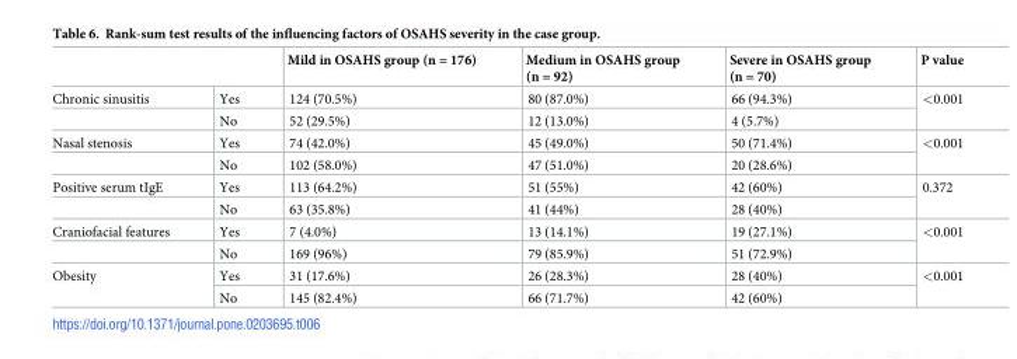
<table><thead><tr><td></td><td></td><td>Mild in OSAHS group (n = 176)</td><td>Medium in OSAHS group (n = 92)</td><td>Severe in OSAHS group (n = 70)</td><td>P value</td></tr></thead><tbody><tr><td rowspan="2">Chronic sinusitis</td><td>Yes</td><td>124 (70.5%)</td><td>80 (87.0%)</td><td>66 (94.3%)</td><td rowspan="2">&lt;0.001</td></tr><tr><td>No</td><td>52 (29.5%)</td><td>12 (13.0%)</td><td>4 (5.7%)</td></tr><tr><td rowspan="2">Nasal stenosis</td><td>Yes</td><td>74 (42.0%)</td><td>45 (49.0%)</td><td>50 (71.4%)</td><td rowspan="2">&lt;0.001</td></tr><tr><td>No</td><td>102 (58.0%)</td><td>47 (51.0%)</td><td>20 (28.6%)</td></tr><tr><td rowspan="2">Positive serum tIgE</td><td>Yes</td><td>113 (64.2%)</td><td>51 (55%)</td><td>42 (60%)</td><td rowspan="2">0.372</td></tr><tr><td>No</td><td>63 (35.8%)</td><td>41 (44%)</td><td>28 (40%)</td></tr><tr><td rowspan="2">Craniofacial features</td><td>Yes</td><td>7 (4.0%)</td><td>13 (14.1%)</td><td>19 (27.1%)</td><td rowspan="2">&lt;0.001</td></tr><tr><td>No</td><td>169 (96%)</td><td>79 (85.9%)</td><td>51 (72.9%)</td></tr><tr><td rowspan="2">Obesity</td><td>Yes</td><td>31 (17.6%)</td><td>26 (28.3%)</td><td>28 (40%)</td><td rowspan="2">&lt;0.001</td></tr><tr><td>No</td><td>145 (82.4%)</td><td>66 (71.7%)</td><td>42 (60%)</td></tr></tbody></table>